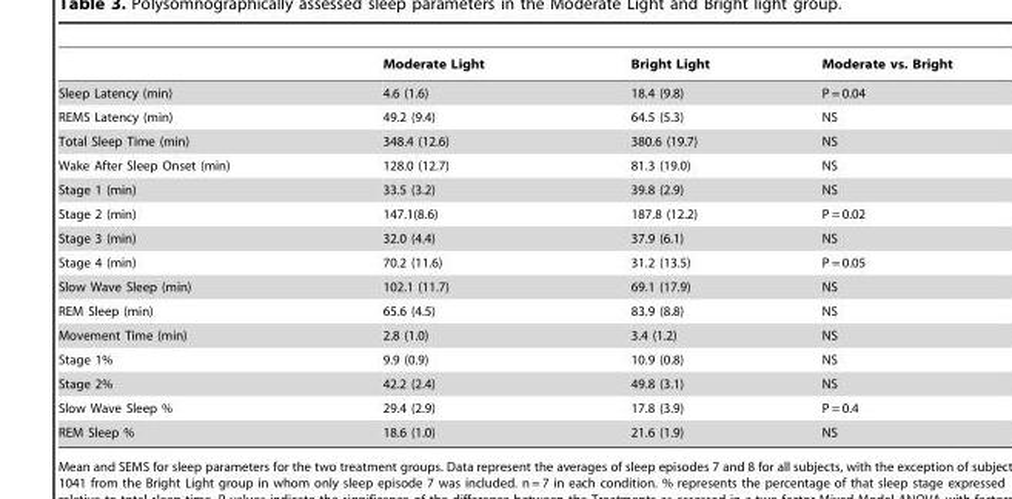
<table><thead><tr><td></td><td>Moderate Light</td><td>Bright Light</td><td>Moderate vs. Bright</td></tr></thead><tbody><tr><td>Sleep Latency (min)</td><td>4.6 (1.6)</td><td>18.4 (9.8)</td><td>P = 0.04</td></tr><tr><td>REMS Latency (min)</td><td>49.2 (9.4)</td><td>64.5 (5.3)</td><td>NS</td></tr><tr><td>Total Sleep Time (min)</td><td>348.4 (12.6)</td><td>380.6 (19.7)</td><td>NS</td></tr><tr><td>Wake After Sleep Onset (min)</td><td>128.0 (12.7)</td><td>81.3 (19.0)</td><td>NS</td></tr><tr><td>Stage 1 (min)</td><td>33.5 (3.2)</td><td>39.8 (2.9)</td><td>NS</td></tr><tr><td>Stage 2 (min)</td><td>147.1(8.6)</td><td>187.8 (12.2)</td><td>P = 0.02</td></tr><tr><td>Stage 3 (min)</td><td>32.0 (4.4)</td><td>37.9 (6.1)</td><td>NS</td></tr><tr><td>Stage 4 (min)</td><td>70.2 (11.6)</td><td>31.2 (13.5)</td><td>P = 0.05</td></tr><tr><td>Slow Wave Sleep (min)</td><td>102.1 (11.7)</td><td>69.1 (17.9)</td><td>NS</td></tr><tr><td>REM Sleep (min)</td><td>65.6 (4.5)</td><td>83.9 (8.8)</td><td>NS</td></tr><tr><td>Movement Time (min)</td><td>2.8 (1.0)</td><td>3.4 (1.2)</td><td>NS</td></tr><tr><td>Stage 1%</td><td>9.9 (0.9)</td><td>10.9 (0.8)</td><td>NS</td></tr><tr><td>Stage 2%</td><td>42.2 (2.4)</td><td>49.8 (3.1)</td><td>NS</td></tr><tr><td>Slow Wave Sleep %</td><td>29.4 (2.9)</td><td>17.8 (3.9)</td><td>P = 0.4</td></tr><tr><td>REM Sleep %</td><td>18.6 (1.0)</td><td>21.6 (1.9)</td><td>NS</td></tr></tbody></table>